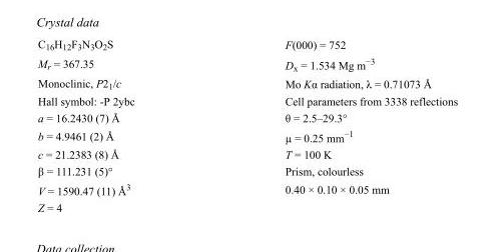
<table><tbody><tr><td>C<sub>16</sub>H<sub>12</sub>F<sub>3</sub>N<sub>3</sub>O<sub>2</sub>S</td><td>F(000) = 752</td></tr><tr><td>M<sub>r</sub> = 367.35</td><td>D<sub>x</sub> = 1.534 Mg m<sup>−3</sup></td></tr><tr><td>Monoclinic, P2<sub>1</sub>/c</td><td>Mo Kα radiation, λ = 0.71073 Å</td></tr><tr><td>Hall symbol: -P 2ybc</td><td>Cell parameters from 3338 reflections</td></tr><tr><td>a = 16.2430 (7) Å</td><td>θ = 2.5–29.3°</td></tr><tr><td>b = 4.9461 (2) Å</td><td>µ = 0.25 mm<sup>−1</sup></td></tr><tr><td>c = 21.2383 (8) Å</td><td>T = 100 K</td></tr><tr><td>β = 111.231 (5)°</td><td>Prism, colourless</td></tr><tr><td>V = 1590.47 (11) Å<sup>3</sup></td><td>0.40 × 0.10 × 0.05 mm</td></tr><tr><td>Z = 4</td><td></td></tr></tbody></table>